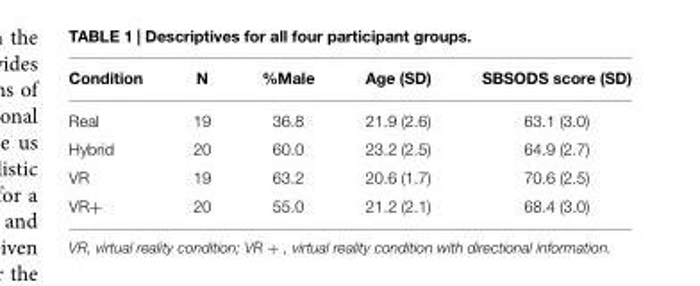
<table><thead><tr><td>Condition</td><td>N</td><td>%Male</td><td>Age (SD)</td><td>SBSODS score (SD)</td></tr></thead><tbody><tr><td>Real</td><td>19</td><td>36.8</td><td>21.9 (2.6)</td><td>63.1 (3.0)</td></tr><tr><td>Hybrid</td><td>20</td><td>60.0</td><td>23.2 (2.5)</td><td>64.9 (2.7)</td></tr><tr><td>VR</td><td>19</td><td>63.2</td><td>20.6 (1.7)</td><td>70.6 (2.5)</td></tr><tr><td>VR+</td><td>20</td><td>55.0</td><td>21.2 (2.1)</td><td>68.4 (3.0)</td></tr></tbody></table>